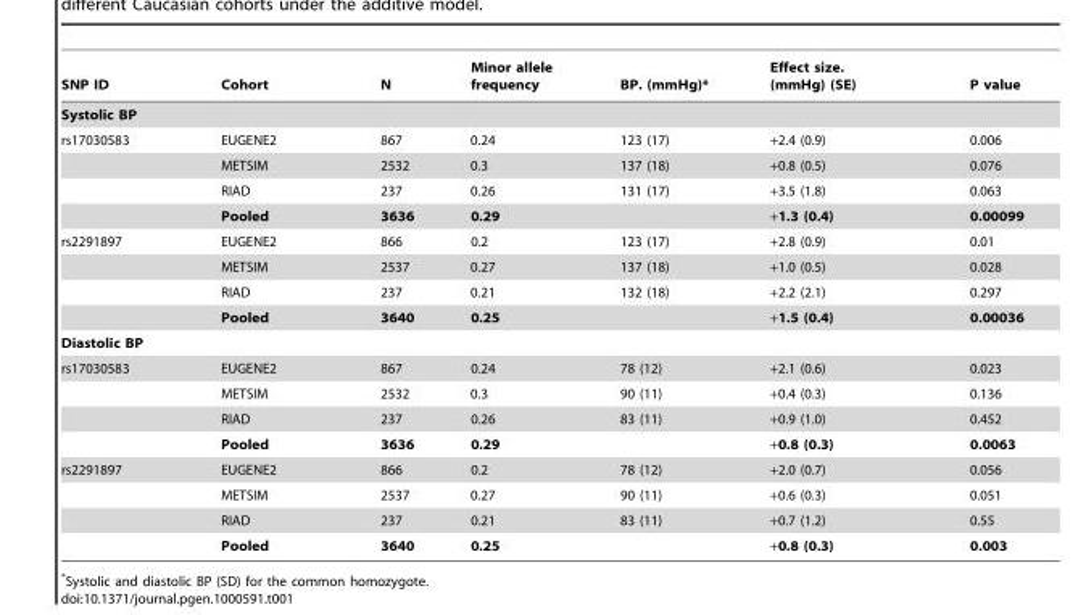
<table><thead><tr><td>SNP ID</td><td>Cohort</td><td>N</td><td>Minor allele frequency</td><td>BP. (mmHg)*</td><td>Effect size. (mmHg) (SE)</td><td>P value</td></tr></thead><tbody><tr><td colspan="7">Systolic BP</td></tr><tr><td rowspan="4">rs17030583</td><td>EUGENE2</td><td>867</td><td>0.24</td><td>123 (17)</td><td>+2.4 (0.9)</td><td>0.006</td></tr><tr><td>METSIM</td><td>2532</td><td>0.3</td><td>137 (18)</td><td>+0.8 (0.5)</td><td>0.076</td></tr><tr><td>RIAD</td><td>237</td><td>0.26</td><td>131 (17)</td><td>+3.5 (1.8)</td><td>0.063</td></tr><tr><td>Pooled</td><td>3636</td><td>0.29</td><td></td><td>+1.3 (0.4)</td><td>0.00099</td></tr><tr><td rowspan="4">rs2291897</td><td>EUGENE2</td><td>866</td><td>0.2</td><td>123 (17)</td><td>+2.8 (0.9)</td><td>0.01</td></tr><tr><td>METSIM</td><td>2537</td><td>0.27</td><td>137 (18)</td><td>+1.0 (0.5)</td><td>0.028</td></tr><tr><td>RIAD</td><td>237</td><td>0.21</td><td>132 (18)</td><td>+2.2 (2.1)</td><td>0.297</td></tr><tr><td>Pooled</td><td>3640</td><td>0.25</td><td></td><td>+1.5 (0.4)</td><td>0.00036</td></tr><tr><td colspan="7">Diastolic BP</td></tr><tr><td rowspan="4">rs17030583</td><td>EUGENE2</td><td>867</td><td>0.24</td><td>78 (12)</td><td>+2.1 (0.6)</td><td>0.023</td></tr><tr><td>METSIM</td><td>2532</td><td>0.3</td><td>90 (11)</td><td>+0.4 (0.3)</td><td>0.136</td></tr><tr><td>RIAD</td><td>237</td><td>0.26</td><td>83 (11)</td><td>+0.9 (1.0)</td><td>0.452</td></tr><tr><td>Pooled</td><td>3636</td><td>0.29</td><td></td><td>+0.8 (0.3)</td><td>0.0063</td></tr><tr><td rowspan="4">rs2291897</td><td>EUGENE2</td><td>866</td><td>0.2</td><td>78 (12)</td><td>+2.0 (0.7)</td><td>0.056</td></tr><tr><td>METSIM</td><td>2537</td><td>0.27</td><td>90 (11)</td><td>+0.6 (0.3)</td><td>0.051</td></tr><tr><td>RIAD</td><td>237</td><td>0.21</td><td>83 (11)</td><td>+0.7 (1.2)</td><td>0.55</td></tr><tr><td>Pooled</td><td>3640</td><td>0.25</td><td></td><td>+0.8 (0.3)</td><td>0.003</td></tr></tbody></table>